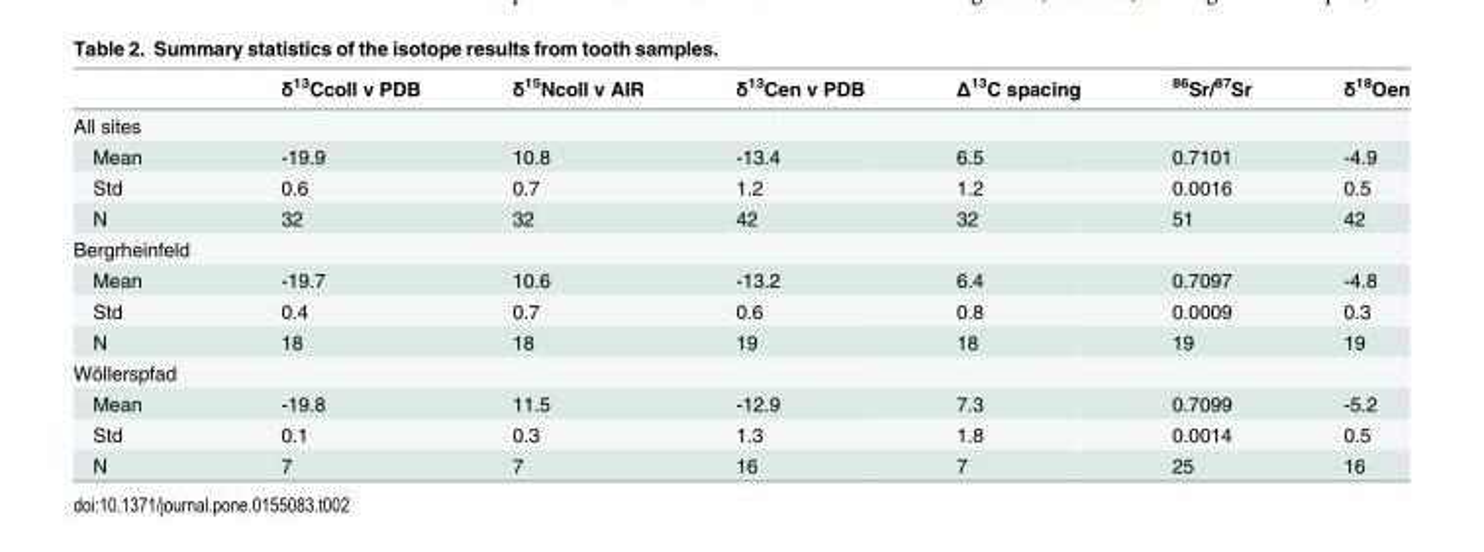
<table><thead><tr><td></td><td>δ<sup>13</sup>Ccoll v PDB</td><td>δ<sup>15</sup>Ncoll v AIR</td><td>δ<sup>13</sup>Cen v PDB</td><td>Δ<sup>13</sup>C spacing</td><td><sup>86</sup>Sr/<sup>87</sup>Sr</td><td>δ<sup>18</sup>Oen</td></tr></thead><tbody><tr><td colspan="7">All sites</td></tr><tr><td>Mean</td><td>-19.9</td><td>10.8</td><td>-13.4</td><td>6.5</td><td>0.7101</td><td>-4.9</td></tr><tr><td>Std</td><td>0.6</td><td>0.7</td><td>1.2</td><td>1.2</td><td>0.0016</td><td>0.5</td></tr><tr><td>N</td><td>32</td><td>32</td><td>42</td><td>32</td><td>51</td><td>42</td></tr><tr><td colspan="7">Bergrheinfeld</td></tr><tr><td>Mean</td><td>-19.7</td><td>10.6</td><td>-13.2</td><td>6.4</td><td>0.7097</td><td>-4.8</td></tr><tr><td>Std</td><td>0.4</td><td>0.7</td><td>0.6</td><td>0.8</td><td>0.0009</td><td>0.3</td></tr><tr><td>N</td><td>18</td><td>18</td><td>19</td><td>18</td><td>19</td><td>19</td></tr><tr><td colspan="7">Wöllerspfad</td></tr><tr><td>Mean</td><td>-19.8</td><td>11.5</td><td>-12.9</td><td>7.3</td><td>0.7099</td><td>-5.2</td></tr><tr><td>Std</td><td>0.1</td><td>0.3</td><td>1.3</td><td>1.8</td><td>0.0014</td><td>0.5</td></tr><tr><td>N</td><td>7</td><td>7</td><td>16</td><td>7</td><td>25</td><td>16</td></tr></tbody></table>